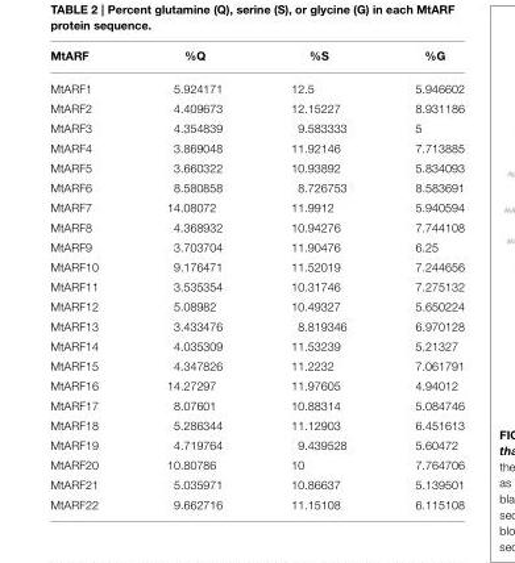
<table><thead><tr><td>MtARF</td><td>%Q</td><td>%S</td><td>%G</td></tr></thead><tbody><tr><td>MtARF1</td><td>5.924171</td><td>12.5</td><td>5.946602</td></tr><tr><td>MtARF2</td><td>4.409673</td><td>12.15227</td><td>8.931186</td></tr><tr><td>MtARF3</td><td>4.354839</td><td>9.583333</td><td>5</td></tr><tr><td>MtARF4</td><td>3.869048</td><td>11.92146</td><td>7.713885</td></tr><tr><td>MtARF5</td><td>3.660322</td><td>10.93892</td><td>5.834093</td></tr><tr><td>MtARF6</td><td>8.580858</td><td>8.726753</td><td>8.583691</td></tr><tr><td>MtARF7</td><td>14.08072</td><td>11.9912</td><td>5.940594</td></tr><tr><td>MtARF8</td><td>4.368932</td><td>10.94276</td><td>7.744108</td></tr><tr><td>MtARF9</td><td>3.703704</td><td>11.90476</td><td>6.25</td></tr><tr><td>MtARF10</td><td>9.176471</td><td>11.52019</td><td>7.244656</td></tr><tr><td>MtARF11</td><td>3.535354</td><td>10.31746</td><td>7.275132</td></tr><tr><td>MtARF12</td><td>5.08982</td><td>10.49327</td><td>5.650224</td></tr><tr><td>MtARF13</td><td>3.433476</td><td>8.819346</td><td>6.970128</td></tr><tr><td>MtARF14</td><td>4.035309</td><td>11.53239</td><td>5.21327</td></tr><tr><td>MtARF15</td><td>4.347826</td><td>11.2232</td><td>7.061791</td></tr><tr><td>MtARF16</td><td>14.27297</td><td>11.97605</td><td>4.94012</td></tr><tr><td>MtARF17</td><td>8.07601</td><td>10.88314</td><td>5.084746</td></tr><tr><td>MtARF18</td><td>5.286344</td><td>11.12903</td><td>6.451613</td></tr><tr><td>MtARF19</td><td>4.719764</td><td>9.439528</td><td>5.60472</td></tr><tr><td>MtARF20</td><td>10.80786</td><td>10</td><td>7.764706</td></tr><tr><td>MtARF21</td><td>5.035971</td><td>10.86637</td><td>5.139501</td></tr><tr><td>MtARF22</td><td>9.662716</td><td>11.15108</td><td>6.115108</td></tr></tbody></table>